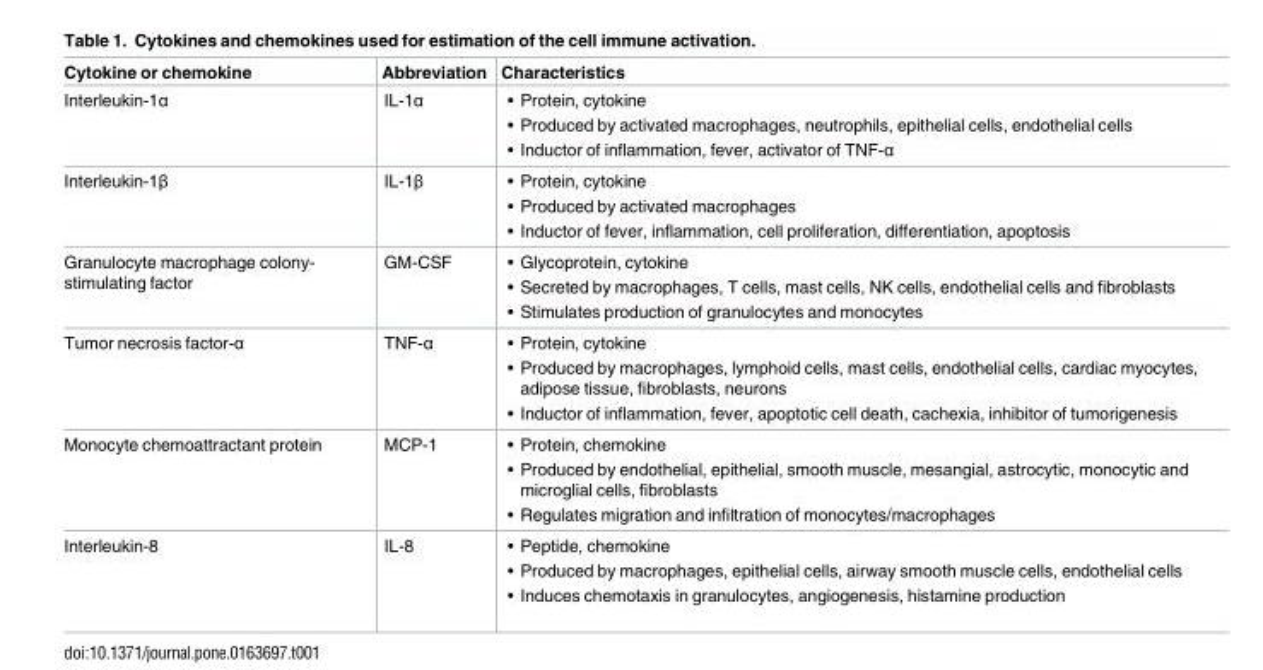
<table><thead><tr><td>Cytokine or chemokine</td><td>Abbreviation</td><td>Characteristics</td></tr></thead><tbody><tr><td>Interleukin-1α</td><td>IL-1α</td><td>• Protein, cytokine • Produced by activated macrophages, neutrophils, epithelial cells, endothelial cells • Inductor of inflammation, fever, activator of TNF-α</td></tr><tr><td>Interleukin-1β</td><td>IL-1β</td><td>• Protein, cytokine • Produced by activated macrophages • Inductor of fever, inflammation, cell proliferation, differentiation, apoptosis</td></tr><tr><td>Granulocyte macrophage colony- stimulating factor</td><td>GM-CSF</td><td>• Glycoprotein, cytokine • Secreted by macrophages, T cells, mast cells, NK cells, endothelial cells and fibroblasts • Stimulates production of granulocytes and monocytes</td></tr><tr><td>Tumor necrosis factor-α</td><td>TNF-α</td><td>• Protein, cytokine • Produced by macrophages, lymphoid cells, mast cells, endothelial cells, cardiac myocytes, adipose tissue, fibroblasts, neurons • Inductor of inflammation, fever, apoptotic cell death, cachexia, inhibitor of tumorigenesis</td></tr><tr><td>Monocyte chemoattractant protein</td><td>MCP-1</td><td>• Protein, chemokine • Produced by endothelial, epithelial, smooth muscle, mesangial, astrocytic, monocytic and microglial cells, fibroblasts • Regulates migration and infiltration of monocytes/macrophages</td></tr><tr><td>Interleukin-8</td><td>IL-8</td><td>• Peptide, chemokine • Produced by macrophages, epithelial cells, airway smooth muscle cells, endothelial cells • Induces chemotaxis in granulocytes, angiogenesis, histamine production</td></tr></tbody></table>